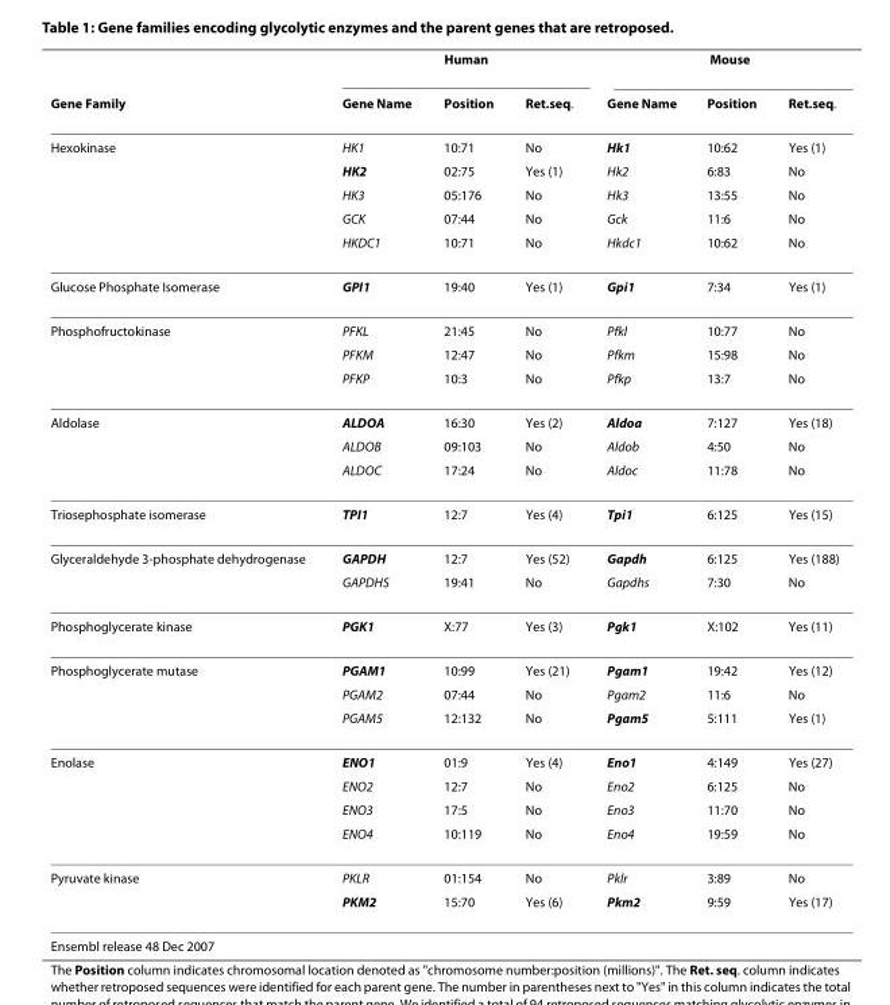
<table><thead><tr><td rowspan="2">Gene Family</td><td colspan="3">Human</td><td colspan="3">Mouse</td></tr><tr><td>Gene Name</td><td>Position</td><td>Ret.seq.</td><td>Gene Name</td><td>Position</td><td>Ret.seq.</td></tr></thead><tbody><tr><td rowspan="5">Hexokinase</td><td>HK1</td><td>10:71</td><td>No</td><td>Hk1</td><td>10:62</td><td>Yes (1)</td></tr><tr><td>HK2</td><td>02:75</td><td>Yes (1)</td><td>Hk2</td><td>6:83</td><td>No</td></tr><tr><td>HK3</td><td>05:176</td><td>No</td><td>Hk3</td><td>13:55</td><td>No</td></tr><tr><td>GCK</td><td>07:44</td><td>No</td><td>Gck</td><td>11:6</td><td>No</td></tr><tr><td>HKDC1</td><td>10:71</td><td>No</td><td>Hkdc1</td><td>10:62</td><td>No</td></tr><tr><td>Glucose Phosphate Isomerase</td><td>GPI1</td><td>19:40</td><td>Yes (1)</td><td>Gpi1</td><td>7:34</td><td>Yes (1)</td></tr><tr><td rowspan="3">Phosphofructokinase</td><td>PFKL</td><td>21:45</td><td>No</td><td>Pfkl</td><td>10:77</td><td>No</td></tr><tr><td>PFKM</td><td>12:47</td><td>No</td><td>Pfkm</td><td>15:98</td><td>No</td></tr><tr><td>PFKP</td><td>10:3</td><td>No</td><td>Pfkp</td><td>13:7</td><td>No</td></tr><tr><td rowspan="3">Aldolase</td><td>ALDOA</td><td>16:30</td><td>Yes (2)</td><td>Aldoa</td><td>7:127</td><td>Yes (18)</td></tr><tr><td>ALDOB</td><td>09:103</td><td>No</td><td>Aldob</td><td>4:50</td><td>No</td></tr><tr><td>ALDOC</td><td>17:24</td><td>No</td><td>Aldoc</td><td>11:78</td><td>No</td></tr><tr><td>Triosephosphate isomerase</td><td>TPI1</td><td>12:7</td><td>Yes (4)</td><td>Tpi1</td><td>6:125</td><td>Yes (15)</td></tr><tr><td rowspan="2">Glyceraldehyde 3-phosphate dehydrogenase</td><td>GAPDH</td><td>12:7</td><td>Yes (52)</td><td>Gapdh</td><td>6:125</td><td>Yes (188)</td></tr><tr><td>GAPDHS</td><td>19:41</td><td>No</td><td>Gapdhs</td><td>7:30</td><td>No</td></tr><tr><td>Phosphoglycerate kinase</td><td>PGK1</td><td>X:77</td><td>Yes (3)</td><td>Pgk1</td><td>X:102</td><td>Yes (11)</td></tr><tr><td rowspan="3">Phosphoglycerate mutase</td><td>PGAM1</td><td>10:99</td><td>Yes (21)</td><td>Pgam1</td><td>19:42</td><td>Yes (12)</td></tr><tr><td>PGAM2</td><td>07:44</td><td>No</td><td>Pgam2</td><td>11:6</td><td>No</td></tr><tr><td>PGAM5</td><td>12:132</td><td>No</td><td>Pgam5</td><td>5:111</td><td>Yes (1)</td></tr><tr><td rowspan="4">Enolase</td><td>ENO1</td><td>01:9</td><td>Yes (4)</td><td>Eno1</td><td>4:149</td><td>Yes (27)</td></tr><tr><td>ENO2</td><td>12:7</td><td>No</td><td>Eno2</td><td>6:125</td><td>No</td></tr><tr><td>ENO3</td><td>17:5</td><td>No</td><td>Eno3</td><td>11:70</td><td>No</td></tr><tr><td>ENO4</td><td>10:119</td><td>No</td><td>Eno4</td><td>19:59</td><td>No</td></tr><tr><td rowspan="2">Pyruvate kinase</td><td>PKLR</td><td>01:154</td><td>No</td><td>Pklr</td><td>3:89</td><td>No</td></tr><tr><td>PKM2</td><td>15:70</td><td>Yes (6)</td><td>Pkm2</td><td>9:59</td><td>Yes (17)</td></tr><tr><td>Ensembl release 48 Dec 2007</td><td></td><td></td><td></td><td></td><td></td><td></td></tr></tbody></table>